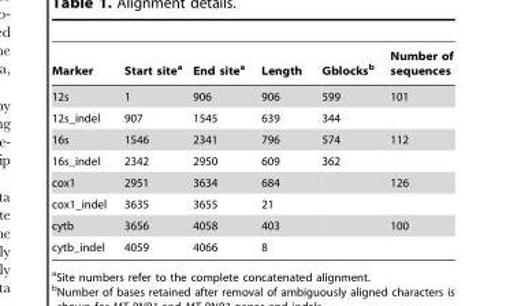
<table><thead><tr><td>Marker</td><td>Start site<sup>a</sup></td><td>End site<sup>a</sup></td><td>Length</td><td>Gblocks<sup>b</sup></td><td>Number of sequences</td></tr></thead><tbody><tr><td>12s</td><td>1</td><td>906</td><td>906</td><td>599</td><td>101</td></tr><tr><td>12s_indel</td><td>907</td><td>1545</td><td>639</td><td>344</td><td></td></tr><tr><td>16s</td><td>1546</td><td>2341</td><td>796</td><td>574</td><td>112</td></tr><tr><td>16s_indel</td><td>2342</td><td>2950</td><td>609</td><td>362</td><td></td></tr><tr><td>cox1</td><td>2951</td><td>3634</td><td>684</td><td></td><td>126</td></tr><tr><td>cox1_indel</td><td>3635</td><td>3655</td><td>21</td><td></td><td></td></tr><tr><td>cytb</td><td>3656</td><td>4058</td><td>403</td><td></td><td>100</td></tr><tr><td>cytb_indel</td><td>4059</td><td>4066</td><td>8</td><td></td><td></td></tr></tbody></table>